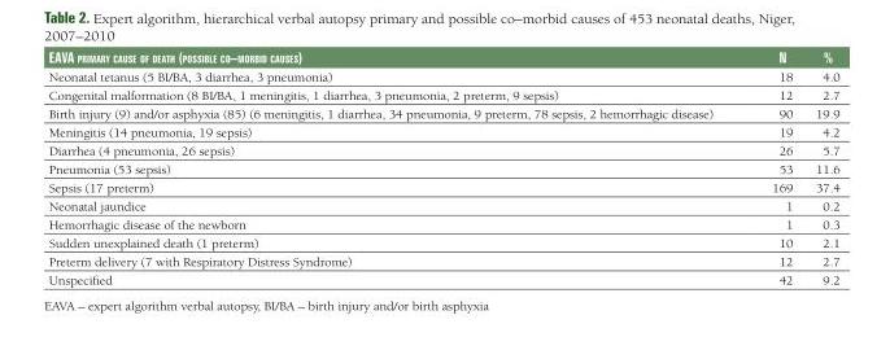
<table><thead><tr><td>eAVA primAry cAuSe of deAth (poSSible co–morbid cAuSeS)</td><td>N</td><td>%</td></tr></thead><tbody><tr><td>Neonatal tetanus (5 BI/BA, 3 diarrhea, 3 pneumonia)</td><td>18</td><td>4.0</td></tr><tr><td>Congenital malformation (8 BI/BA, 1 meningitis, 1 diarrhea, 3 pneumonia, 2 preterm, 9 sepsis)</td><td>12</td><td>2.7</td></tr><tr><td>Birth injury (9) and/or asphyxia (85) (6 meningitis, 1 diarrhea, 34 pneumonia, 9 preterm, 78 sepsis, 2 hemorrhagic disease)</td><td>90</td><td>19.9</td></tr><tr><td>Meningitis (14 pneumonia, 19 sepsis)</td><td>19</td><td>4.2</td></tr><tr><td>Diarrhea (4 pneumonia, 26 sepsis)</td><td>26</td><td>5.7</td></tr><tr><td>Pneumonia (53 sepsis)</td><td>53</td><td>11.6</td></tr><tr><td>Sepsis (17 preterm)</td><td>169</td><td>37.4</td></tr><tr><td>Neonatal jaundice</td><td>1</td><td>0.2</td></tr><tr><td>Hemorrhagic disease of the newborn</td><td>1</td><td>0.3</td></tr><tr><td>Sudden unexplained death (1 preterm)</td><td>10</td><td>2.1</td></tr><tr><td>Preterm delivery (7 with Respiratory Distress Syndrome)</td><td>12</td><td>2.7</td></tr><tr><td>Unspecified</td><td>42</td><td>9.2</td></tr></tbody></table>